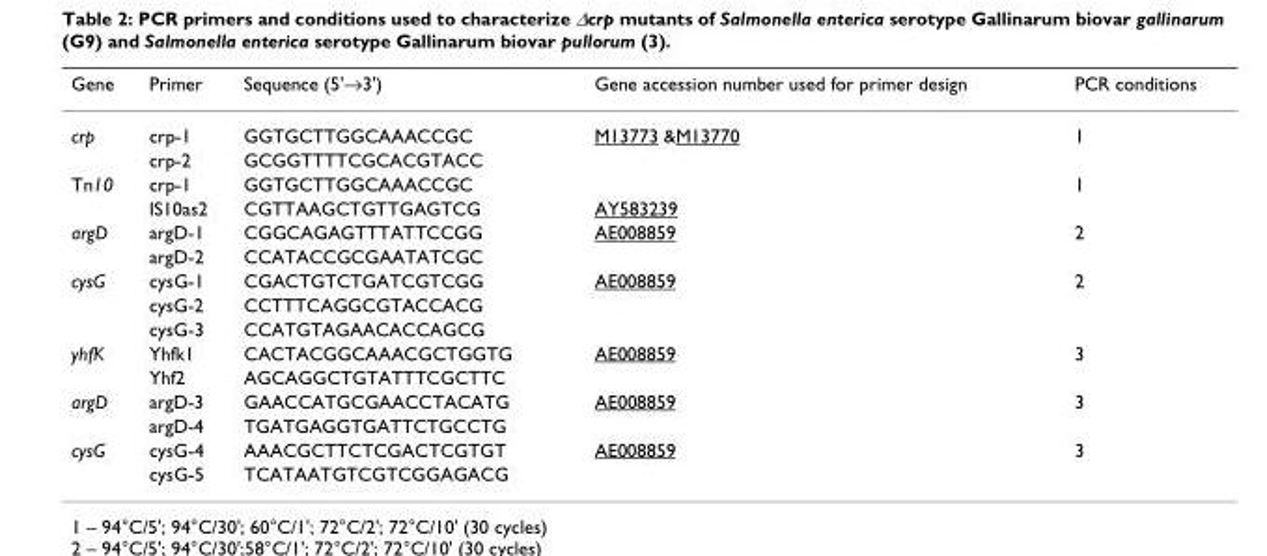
<table><thead><tr><td>Gene</td><td>Primer</td><td>Sequence (5&#x27;→3&#x27;)</td><td>Gene accession number used for primer design</td><td>PCR conditions</td></tr></thead><tbody><tr><td rowspan="2">crp</td><td>crp-1</td><td>GGTGCTTGGCAAACCGC</td><td>M13773 &amp;M13770</td><td>1</td></tr><tr><td>crp-2</td><td>GCGGTTTTCGCACGTACC</td><td></td><td></td></tr><tr><td rowspan="2">Tn10</td><td>crp-1</td><td>GGTGCTTGGCAAACCGC</td><td></td><td>1</td></tr><tr><td>IS10as2</td><td>CGTTAAGCTGTTGAGTCG</td><td>AY583239</td><td></td></tr><tr><td rowspan="2">argD</td><td>argD-1</td><td>CGGCAGAGTTTATTCCGG</td><td>AE008859</td><td>2</td></tr><tr><td>argD-2</td><td>CCATACCGCGAATATCGC</td><td></td><td></td></tr><tr><td rowspan="3">cysG</td><td>cysG-1</td><td>CGACTGTCTGATCGTCGG</td><td>AE008859</td><td>2</td></tr><tr><td>cysG-2</td><td>CCTTTCAGGCGTACCACG</td><td></td><td></td></tr><tr><td>cysG-3</td><td>CCATGTAGAACACCAGCG</td><td></td><td></td></tr><tr><td rowspan="2">yhfK</td><td>Yhfk1</td><td>CACTACGGCAAACGCTGGTG</td><td>AE008859</td><td>3</td></tr><tr><td>Yhf2</td><td>AGCAGGCTGTATTTCGCTTC</td><td></td><td></td></tr><tr><td rowspan="2">argD</td><td>argD-3</td><td>GAACCATGCGAACCTACATG</td><td>AE008859</td><td>3</td></tr><tr><td>argD-4</td><td>TGATGAGGTGATTCTGCCTG</td><td></td><td></td></tr><tr><td rowspan="2">cysG</td><td>cysG-4</td><td>AAACGCTTCTCGACTCGTGT</td><td>AE008859</td><td>3</td></tr><tr><td>cysG-5</td><td>TCATAATGTCGTCGGAGACG</td><td></td><td></td></tr></tbody></table>